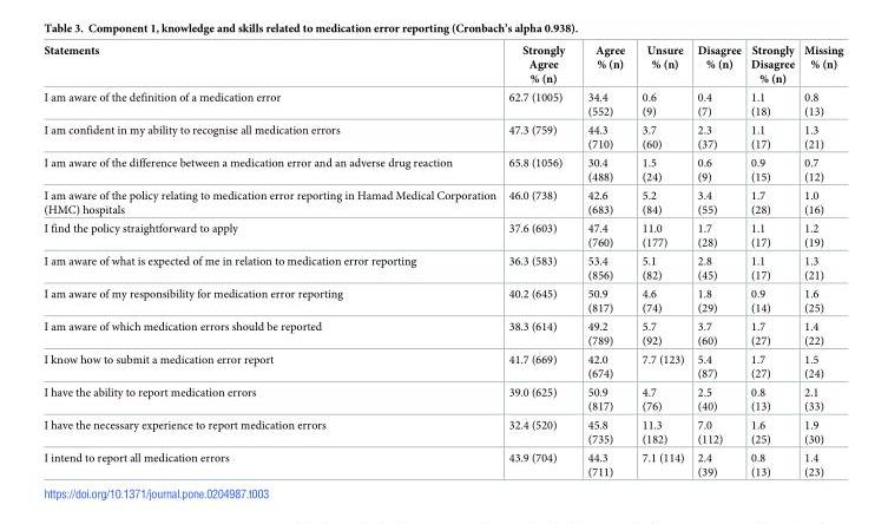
<table><thead><tr><td>Statements</td><td>Strongly Agree % (n)</td><td>Agree % (n)</td><td>Unsure % (n)</td><td>Disagree % (n)</td><td>Strongly Disagree % (n)</td><td>Missing % (n)</td></tr></thead><tbody><tr><td>I am aware of the definition of a medication error</td><td>62.7 (1005)</td><td>34.4 (552)</td><td>0.6 (9)</td><td>0.4 (7)</td><td>1.1 (18)</td><td>0.8 (13)</td></tr><tr><td>I am confident in my ability to recognise all medication errors</td><td>47.3 (759)</td><td>44.3 (710)</td><td>3.7 (60)</td><td>2.3 (37)</td><td>1.1 (17)</td><td>1.3 (21)</td></tr><tr><td>I am aware of the difference between a medication error and an adverse drug reaction</td><td>65.8 (1056)</td><td>30.4 (488)</td><td>1.5 (24)</td><td>0.6 (9)</td><td>0.9 (15)</td><td>0.7 (12)</td></tr><tr><td>I am aware of the policy relating to medication error reporting in Hamad Medical Corporation (HMC) hospitals</td><td>46.0 (738)</td><td>42.6 (683)</td><td>5.2 (84)</td><td>3.4 (55)</td><td>1.7 (28)</td><td>1.0 (16)</td></tr><tr><td>I find the policy straightforward to apply</td><td>37.6 (603)</td><td>47.4 (760)</td><td>11.0 (177)</td><td>1.7 (28)</td><td>1.1 (17)</td><td>1.2 (19)</td></tr><tr><td>I am aware of what is expected of me in relation to medication error reporting</td><td>36.3 (583)</td><td>53.4 (856)</td><td>5.1 (82)</td><td>2.8 (45)</td><td>1.1 (17)</td><td>1.3 (21)</td></tr><tr><td>I am aware of my responsibility for medication error reporting</td><td>40.2 (645)</td><td>50.9 (817)</td><td>4.6 (74)</td><td>1.8 (29)</td><td>0.9 (14)</td><td>1.6 (25)</td></tr><tr><td>I am aware of which medication errors should be reported</td><td>38.3 (614)</td><td>49.2 (789)</td><td>5.7 (92)</td><td>3.7 (60)</td><td>1.7 (27)</td><td>1.4 (22)</td></tr><tr><td>I know how to submit a medication error report</td><td>41.7 (669)</td><td>42.0 (674)</td><td>7.7 (123)</td><td>5.4 (87)</td><td>1.7 (27)</td><td>1.5 (24)</td></tr><tr><td>I have the ability to report medication errors</td><td>39.0 (625)</td><td>50.9 (817)</td><td>4.7 (76)</td><td>2.5 (40)</td><td>0.8 (13)</td><td>2.1 (33)</td></tr><tr><td>I have the necessary experience to report medication errors</td><td>32.4 (520)</td><td>45.8 (735)</td><td>11.3 (182)</td><td>7.0 (112)</td><td>1.6 (25)</td><td>1.9 (30)</td></tr><tr><td>I intend to report all medication errors</td><td>43.9 (704)</td><td>44.3 (711)</td><td>7.1 (114)</td><td>2.4 (39)</td><td>0.8 (13)</td><td>1.4 (23)</td></tr></tbody></table>